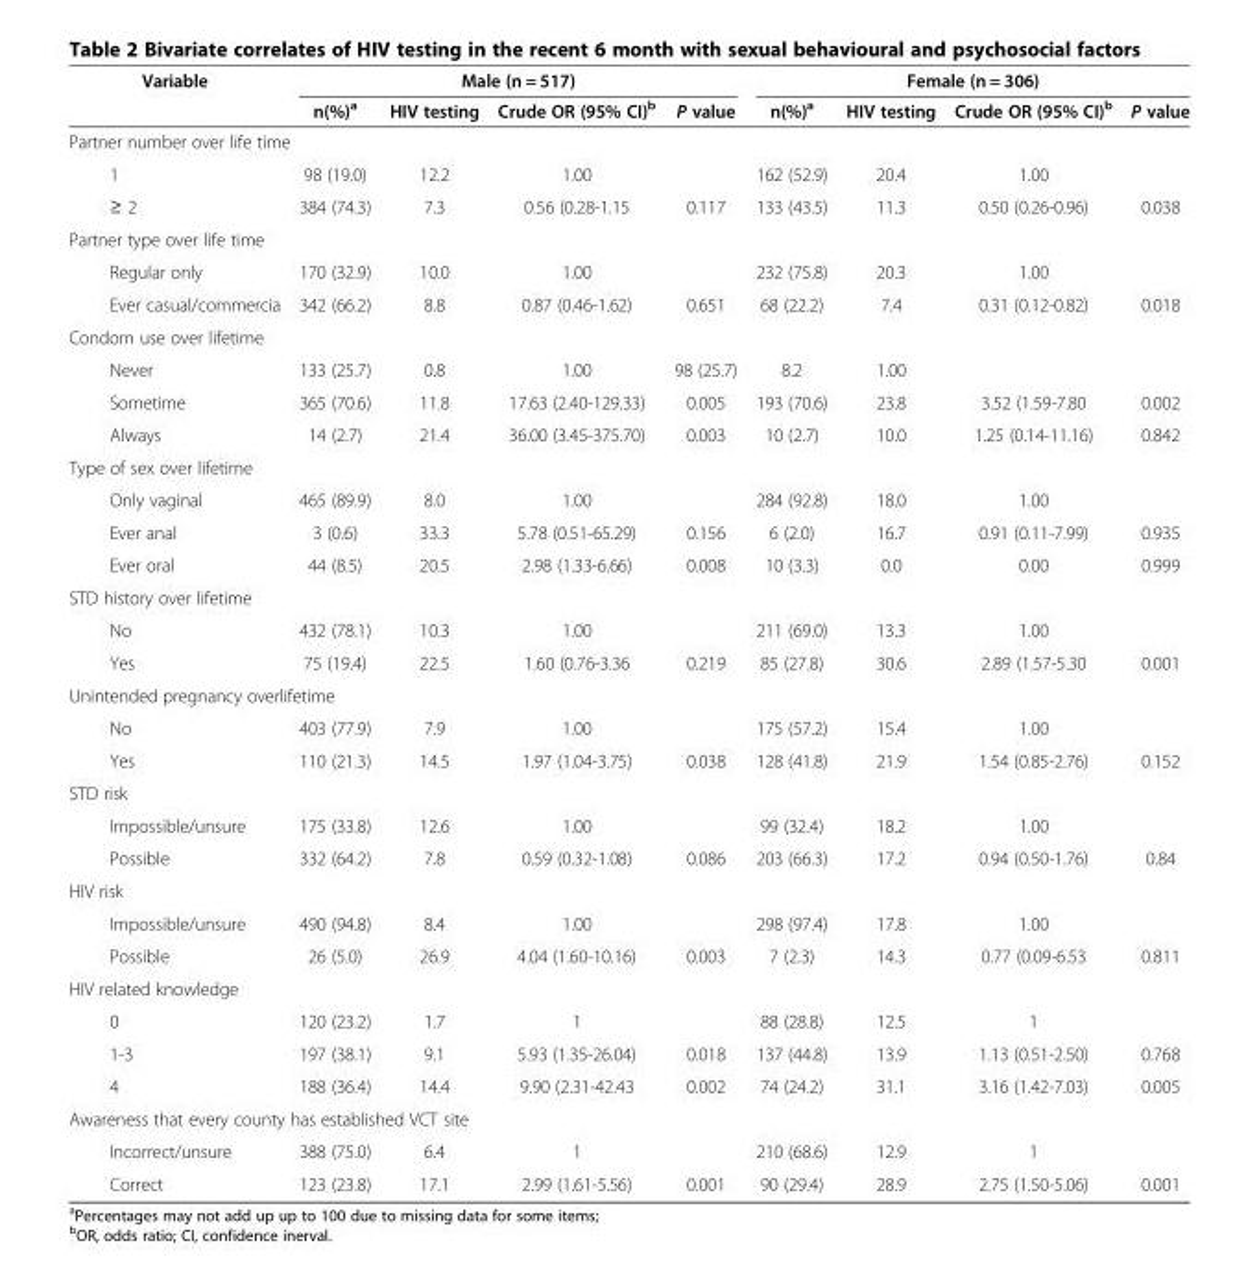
<table><thead><tr><td rowspan="2">Variable</td><td colspan="4">Male (n = 517)</td><td colspan="4">Female (n = 306)</td></tr><tr><td>n(%)<sup>a</sup></td><td>HIV testing</td><td>Crude OR (95% CI)<sup>b</sup></td><td>P value</td><td>n(%)<sup>a</sup></td><td>HIV testing</td><td>Crude OR (95% CI)<sup>b</sup></td><td>P value</td></tr></thead><tbody><tr><td colspan="9">Partner number over life time</td></tr><tr><td>1</td><td>98 (19.0)</td><td>12.2</td><td>1.00</td><td></td><td>162 (52.9)</td><td>20.4</td><td>1.00</td><td></td></tr><tr><td>≥ 2</td><td>384 (74.3)</td><td>7.3</td><td>0.56 (0.28-1.15</td><td>0.117</td><td>133 (43.5)</td><td>11.3</td><td>0.50 (0.26-0.96)</td><td>0.038</td></tr><tr><td colspan="9">Partner type over life time</td></tr><tr><td>Regular only</td><td>170 (32.9)</td><td>10.0</td><td>1.00</td><td></td><td>232 (75.8)</td><td>20.3</td><td>1.00</td><td></td></tr><tr><td>Ever casual/commercia</td><td>342 (66.2)</td><td>8.8</td><td>0.87 (0.46-1.62)</td><td>0.651</td><td>68 (22.2)</td><td>7.4</td><td>0.31 (0.12-0.82)</td><td>0.018</td></tr><tr><td colspan="9">Condom use over lifetime</td></tr><tr><td>Never</td><td>133 (25.7)</td><td>0.8</td><td>1.00</td><td>98 (25.7)</td><td>8.2</td><td>1.00</td><td></td><td></td></tr><tr><td>Sometime</td><td>365 (70.6)</td><td>11.8</td><td>17.63 (2.40-129.33)</td><td>0.005</td><td>193 (70.6)</td><td>23.8</td><td>3.52 (1.59-7.80</td><td>0.002</td></tr><tr><td>Always</td><td>14 (2.7)</td><td>21.4</td><td>36.00 (3.45-375.70)</td><td>0.003</td><td>10 (2.7)</td><td>10.0</td><td>1.25 (0.14-11.16)</td><td>0.842</td></tr><tr><td colspan="9">Type of sex over lifetime</td></tr><tr><td>Only vaginal</td><td>465 (89.9)</td><td>8.0</td><td>1.00</td><td></td><td>284 (92.8)</td><td>18.0</td><td>1.00</td><td></td></tr><tr><td>Ever anal</td><td>3 (0.6)</td><td>33.3</td><td>5.78 (0.51-65.29)</td><td>0.156</td><td>6 (2.0)</td><td>16.7</td><td>0.91 (0.11-7.99)</td><td>0.935</td></tr><tr><td>Ever oral</td><td>44 (8.5)</td><td>20.5</td><td>2.98 (1.33-6.66)</td><td>0.008</td><td>10 (3.3)</td><td>0.0</td><td>0.00</td><td>0.999</td></tr><tr><td colspan="9">STD history over lifetime</td></tr><tr><td>No</td><td>432 (78.1)</td><td>10.3</td><td>1.00</td><td></td><td>211 (69.0)</td><td>13.3</td><td>1.00</td><td></td></tr><tr><td>Yes</td><td>75 (19.4)</td><td>22.5</td><td>1.60 (0.76-3.36</td><td>0.219</td><td>85 (27.8)</td><td>30.6</td><td>2.89 (1.57-5.30</td><td>0.001</td></tr><tr><td colspan="9">Unintended pregnancy overlifetime</td></tr><tr><td>No</td><td>403 (77.9)</td><td>7.9</td><td>1.00</td><td></td><td>175 (57.2)</td><td>15.4</td><td>1.00</td><td></td></tr><tr><td>Yes</td><td>110 (21.3)</td><td>14.5</td><td>1.97 (1.04-3.75)</td><td>0.038</td><td>128 (41.8)</td><td>21.9</td><td>1.54 (0.85-2.76)</td><td>0.152</td></tr><tr><td colspan="9">STD risk</td></tr><tr><td>Impossible/unsure</td><td>175 (33.8)</td><td>12.6</td><td>1.00</td><td></td><td>99 (32.4)</td><td>18.2</td><td>1.00</td><td></td></tr><tr><td>Possible</td><td>332 (64.2)</td><td>7.8</td><td>0.59 (0.32-1.08)</td><td>0.086</td><td>203 (66.3)</td><td>17.2</td><td>0.94 (0.50-1.76)</td><td>0.84</td></tr><tr><td colspan="9">HIV risk</td></tr><tr><td>Impossible/unsure</td><td>490 (94.8)</td><td>8.4</td><td>1.00</td><td></td><td>298 (97.4)</td><td>17.8</td><td>1.00</td><td></td></tr><tr><td>Possible</td><td>26 (5.0)</td><td>26.9</td><td>4.04 (1.60-10.16)</td><td>0.003</td><td>7 (2.3)</td><td>14.3</td><td>0.77 (0.09-6.53</td><td>0.811</td></tr><tr><td colspan="9">HIV related knowledge</td></tr><tr><td>0</td><td>120 (23.2)</td><td>1.7</td><td>1</td><td></td><td>88 (28.8)</td><td>12.5</td><td>1</td><td></td></tr><tr><td>1-3</td><td>197 (38.1)</td><td>9.1</td><td>5.93 (1.35-26.04)</td><td>0.018</td><td>137 (44.8)</td><td>13.9</td><td>1.13 (0.51-2.50)</td><td>0.768</td></tr><tr><td>4</td><td>188 (36.4)</td><td>14.4</td><td>9.90 (2.31-42.43</td><td>0.002</td><td>74 (24.2)</td><td>31.1</td><td>3.16 (1.42-7.03)</td><td>0.005</td></tr><tr><td colspan="9">Awareness that every county has established VCT site</td></tr><tr><td>Incorrect/unsure</td><td>388 (75.0)</td><td>6.4</td><td>1</td><td></td><td>210 (68.6)</td><td>12.9</td><td>1</td><td></td></tr><tr><td>Correct</td><td>123 (23.8)</td><td>17.1</td><td>2.99 (1.61-5.56)</td><td>0.001</td><td>90 (29.4)</td><td>28.9</td><td>2.75 (1.50-5.06)</td><td>0.001</td></tr></tbody></table>